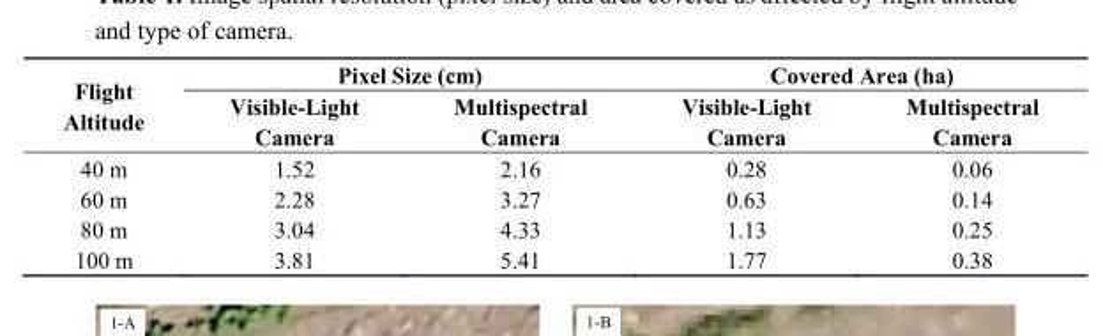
<table><thead><tr><td rowspan="2">Flight Altitude</td><td colspan="2">Pixel Size (cm)</td><td colspan="2">Covered Area (ha)</td></tr><tr><td>Visible-Light Camera</td><td>Multispectral Camera</td><td>Visible-Light Camera</td><td>Multispectral Camera</td></tr></thead><tbody><tr><td>40 m</td><td>1.52</td><td>2.16</td><td>0.28</td><td>0.06</td></tr><tr><td>60 m</td><td>2.28</td><td>3.27</td><td>0.63</td><td>0.14</td></tr><tr><td>80 m</td><td>3.04</td><td>4.33</td><td>1.13</td><td>0.25</td></tr><tr><td>100 m</td><td>3.81</td><td>5.41</td><td>1.77</td><td>0.38</td></tr></tbody></table>